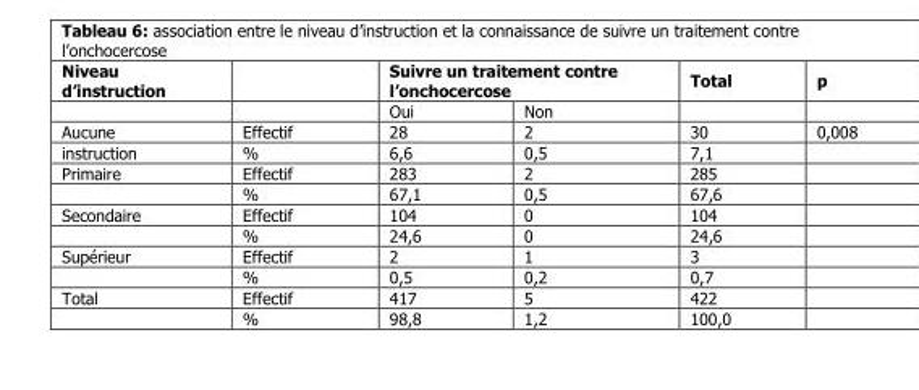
<table><thead><tr><td rowspan="2">Niveau d’instruction</td><td rowspan="2"></td><td colspan="2">Suivre un traitement contre l’onchocercose</td><td rowspan="2">Total</td><td rowspan="2">p</td></tr><tr><td>Oui</td><td>Non</td></tr></thead><tbody><tr><td>Aucune</td><td>Effectif</td><td>28</td><td>2</td><td>30</td><td>0,008</td></tr><tr><td>instruction</td><td>%</td><td>6,6</td><td>0,5</td><td>7,1</td><td></td></tr><tr><td rowspan="2">Primaire</td><td>Effectif</td><td>283</td><td>2</td><td>285</td><td></td></tr><tr><td>%</td><td>67,1</td><td>0,5</td><td>67,6</td><td></td></tr><tr><td rowspan="2">Secondaire</td><td>Effectif</td><td>104</td><td>0</td><td>104</td><td></td></tr><tr><td>%</td><td>24,6</td><td>0</td><td>24,6</td><td></td></tr><tr><td rowspan="2">Supérieur</td><td>Effectif</td><td>2</td><td>1</td><td>3</td><td></td></tr><tr><td>%</td><td>0,5</td><td>0,2</td><td>0,7</td><td></td></tr><tr><td rowspan="2">Total</td><td>Effectif</td><td>417</td><td>5</td><td>422</td><td></td></tr><tr><td>%</td><td>98,8</td><td>1,2</td><td>100,0</td><td></td></tr></tbody></table>